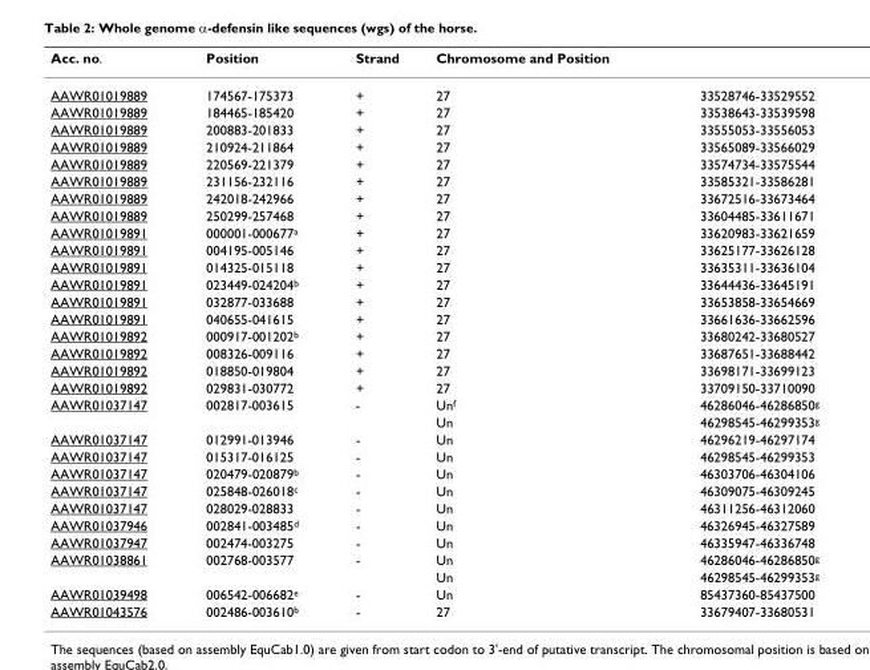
<table><thead><tr><td>Acc. no.</td><td>Position</td><td>Strand</td><td>Chromosome and Position</td><td></td></tr></thead><tbody><tr><td>AAWR01019889</td><td>174567-175373</td><td>+</td><td>27</td><td>33528746-33529552</td></tr><tr><td>AAWR01019889</td><td>184465-185420</td><td>+</td><td>27</td><td>33538643-33539598</td></tr><tr><td>AAWR01019889</td><td>200883-201833</td><td>+</td><td>27</td><td>33555053-33556053</td></tr><tr><td>AAWR01019889</td><td>210924-211864</td><td>+</td><td>27</td><td>33565089-33566029</td></tr><tr><td>AAWR01019889</td><td>220569-221379</td><td>+</td><td>27</td><td>33574734-33575544</td></tr><tr><td>AAWR01019889</td><td>231156-232116</td><td>+</td><td>27</td><td>33585321-33586281</td></tr><tr><td>AAWR01019889</td><td>242018-242966</td><td>+</td><td>27</td><td>33672516-33673464</td></tr><tr><td>AAWR01019889</td><td>250299-257468</td><td>+</td><td>27</td><td>33604485-33611671</td></tr><tr><td>AAWR01019891</td><td>000001-000677<sup>a</sup></td><td>+</td><td>27</td><td>33620983-33621659</td></tr><tr><td>AAWR01019891</td><td>004195-005146</td><td>+</td><td>27</td><td>33625177-33626128</td></tr><tr><td>AAWR01019891</td><td>014325-015118</td><td>+</td><td>27</td><td>33635311-33636104</td></tr><tr><td>AAWR01019891</td><td>023449-024204<sup>b</sup></td><td>+</td><td>27</td><td>33644436-33645191</td></tr><tr><td>AAWR01019891</td><td>032877-033688</td><td>+</td><td>27</td><td>33653858-33654669</td></tr><tr><td>AAWR01019891</td><td>040655-041615</td><td>+</td><td>27</td><td>33661636-33662596</td></tr><tr><td>AAWR01019892</td><td>000917-001202<sup>b</sup></td><td>+</td><td>27</td><td>33680242-33680527</td></tr><tr><td>AAWR01019892</td><td>008326-009116</td><td>+</td><td>27</td><td>33687651-33688442</td></tr><tr><td>AAWR01019892</td><td>018850-019804</td><td>+</td><td>27</td><td>33698171-33699123</td></tr><tr><td>AAWR01019892</td><td>029831-030772</td><td>+</td><td>27</td><td>33709150-33710090</td></tr><tr><td rowspan="2">AAWR01037147</td><td>002817-003615</td><td>-</td><td>Un<sup>f</sup></td><td>46286046-46286850<sup>g</sup></td></tr><tr><td></td><td></td><td>Un</td><td>46298545-46299353<sup>g</sup></td></tr><tr><td>AAWR01037147</td><td>012991-013946</td><td>-</td><td>Un</td><td>46296219-46297174</td></tr><tr><td>AAWR01037147</td><td>015317-016125</td><td>-</td><td>Un</td><td>46298545-46299353</td></tr><tr><td>AAWR01037147</td><td>020479-020879<sup>b</sup></td><td>-</td><td>Un</td><td>46303706-46304106</td></tr><tr><td>AAWR01037147</td><td>025848-026018<sup>c</sup></td><td>-</td><td>Un</td><td>46309075-46309245</td></tr><tr><td>AAWR01037147</td><td>028029-028833</td><td>-</td><td>Un</td><td>46311256-46312060</td></tr><tr><td>AAWR01037946</td><td>002841-003485<sup>d</sup></td><td>-</td><td>Un</td><td>46326945-46327589</td></tr><tr><td>AAWR01037947</td><td>002474-003275</td><td>-</td><td>Un</td><td>46335947-46336748</td></tr><tr><td rowspan="2">AAWR01038861</td><td>002768-003577</td><td>-</td><td>Un</td><td>46286046-46286850<sup>g</sup></td></tr><tr><td></td><td></td><td>Un</td><td>46298545-46299353<sup>g</sup></td></tr><tr><td>AAWR01039498</td><td>006542-006682<sup>e</sup></td><td>-</td><td>Un</td><td>85437360-85437500</td></tr><tr><td>AAWR01043576</td><td>002486-003610<sup>b</sup></td><td>-</td><td>27</td><td>33679407-33680531</td></tr></tbody></table>